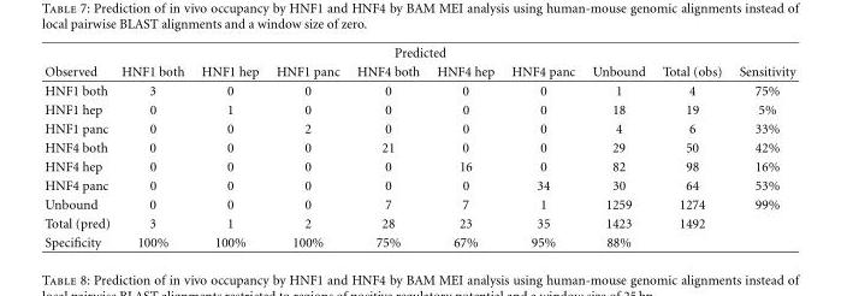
<table><thead><tr><td colspan="10">Predicted</td></tr><tr><td>Observed</td><td>HNF1 both</td><td>HNF1 hep</td><td>HNF1 panc</td><td>HNF4 both</td><td>HNF4 hep</td><td>HNF4 panc</td><td>Unbound</td><td>Total (obs)</td><td>Sensitivity</td></tr></thead><tbody><tr><td>HNF1 both</td><td>3</td><td>0</td><td>0</td><td>0</td><td>0</td><td>0</td><td>1</td><td>4</td><td>75%</td></tr><tr><td>HNF1 hep</td><td>0</td><td>1</td><td>0</td><td>0</td><td>0</td><td>0</td><td>18</td><td>19</td><td>5%</td></tr><tr><td>HNF1 panc</td><td>0</td><td>0</td><td>2</td><td>0</td><td>0</td><td>0</td><td>4</td><td>6</td><td>33%</td></tr><tr><td>HNF4 both</td><td>0</td><td>0</td><td>0</td><td>21</td><td>0</td><td>0</td><td>29</td><td>50</td><td>42%</td></tr><tr><td>HNF4 hep</td><td>0</td><td>0</td><td>0</td><td>0</td><td>16</td><td>0</td><td>82</td><td>98</td><td>16%</td></tr><tr><td>HNF4 panc</td><td>0</td><td>0</td><td>0</td><td>0</td><td>0</td><td>34</td><td>30</td><td>64</td><td>53%</td></tr><tr><td>Unbound</td><td>0</td><td>0</td><td>0</td><td>7</td><td>7</td><td>1</td><td>1259</td><td>1274</td><td>99%</td></tr><tr><td>Total (pred)</td><td>3</td><td>1</td><td>2</td><td>28</td><td>23</td><td>35</td><td>1423</td><td>1492</td><td></td></tr><tr><td>Specificity</td><td>100%</td><td>100%</td><td>100%</td><td>75%</td><td>67%</td><td>95%</td><td>88%</td><td></td><td></td></tr></tbody></table>